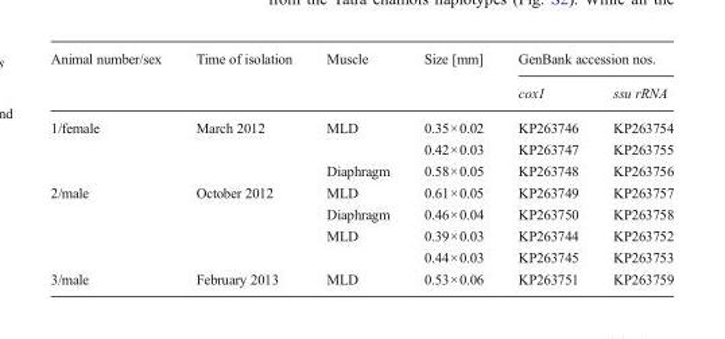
<table><thead><tr><td rowspan="2">Animal number/sex</td><td rowspan="2">Time of isolation</td><td rowspan="2">Muscle</td><td rowspan="2">Size [mm]</td><td colspan="2">GenBank accession nos.</td></tr><tr><td>cox1</td><td>ssu rRNA</td></tr></thead><tbody><tr><td rowspan="3">1/female</td><td rowspan="3">March 2012</td><td rowspan="2">MLD</td><td>0.35×0.02</td><td>KP263746</td><td>KP263754</td></tr><tr><td>0.42×0.03</td><td>KP263747</td><td>KP263755</td></tr><tr><td>Diaphragm</td><td>0.58×0.05</td><td>KP263748</td><td>KP263756</td></tr><tr><td rowspan="4">2/male</td><td rowspan="4">October 2012</td><td>MLD</td><td>0.61×0.05</td><td>KP263749</td><td>KP263757</td></tr><tr><td>Diaphragm</td><td>0.46×0.04</td><td>KP263750</td><td>KP263758</td></tr><tr><td rowspan="2">MLD</td><td>0.39×0.03</td><td>KP263744</td><td>KP263752</td></tr><tr><td>0.44×0.03</td><td>KP263745</td><td>KP263753</td></tr><tr><td>3/male</td><td>February 2013</td><td>MLD</td><td>0.53×0.06</td><td>KP263751</td><td>KP263759</td></tr></tbody></table>